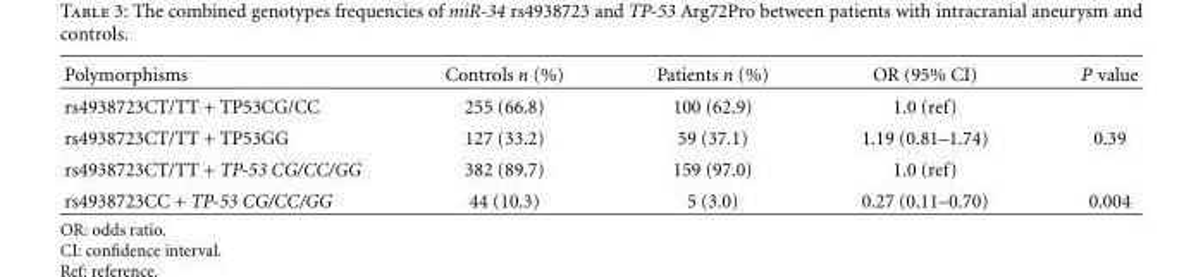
<table><thead><tr><td>Polymorphisms</td><td>Controls n (%)</td><td>Patients n (%)</td><td>OR (95% CI)</td><td>P value</td></tr></thead><tbody><tr><td>rs4938723CT/TT + TP53CG/CC</td><td>255 (66.8)</td><td>100 (62.9)</td><td>1.0 (ref)</td><td></td></tr><tr><td>rs4938723CT/TT + TP53GG</td><td>127 (33.2)</td><td>59 (37.1)</td><td>1.19 (0.81–1.74)</td><td>0.39</td></tr><tr><td>rs4938723CT/TT + TP-53 CG/CC/GG</td><td>382 (89.7)</td><td>159 (97.0)</td><td>1.0 (ref)</td><td></td></tr><tr><td>rs4938723CC + TP-53 CG/CC/GG</td><td>44 (10.3)</td><td>5 (3.0)</td><td>0.27 (0.11–0.70)</td><td>0.004</td></tr></tbody></table>